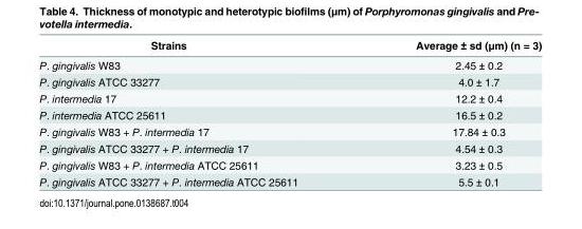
<table><thead><tr><td>Strains</td><td>Average ± sd (μm) (n = 3)</td></tr></thead><tbody><tr><td>P. gingivalis W83</td><td>2.45 ± 0.2</td></tr><tr><td>P. gingivalis ATCC 33277</td><td>4.0 ± 1.7</td></tr><tr><td>P. intermedia 17</td><td>12.2 ± 0.4</td></tr><tr><td>P. intermedia ATCC 25611</td><td>16.5 ± 0.2</td></tr><tr><td>P. gingivalis W83 + P. intermedia 17</td><td>17.84 ± 0.3</td></tr><tr><td>P. gingivalis ATCC 33277 + P. intermedia 17</td><td>4.54 ± 0.3</td></tr><tr><td>P. gingivalis W83 + P. intermedia ATCC 25611</td><td>3.23 ± 0.5</td></tr><tr><td>P. gingivalis ATCC 33277 + P. intermedia ATCC 25611</td><td>5.5 ± 0.1</td></tr></tbody></table>